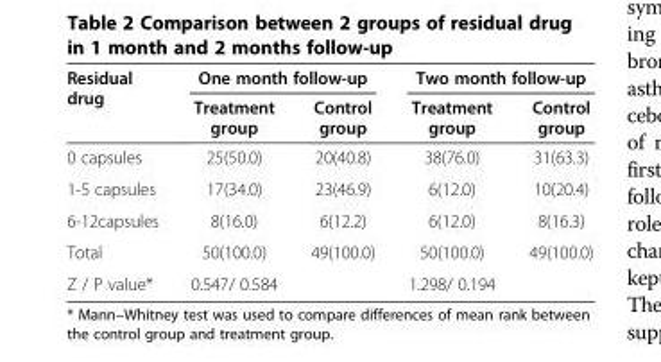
<table><thead><tr><td rowspan="2">Residual drug</td><td colspan="2">One month follow-up</td><td colspan="2">Two month follow-up</td></tr><tr><td>Treatment group</td><td>Control group</td><td>Treatment group</td><td>Control group</td></tr></thead><tbody><tr><td>0 capsules</td><td>25(50.0)</td><td>20(40.8)</td><td>38(76.0)</td><td>31(63.3)</td></tr><tr><td>1-5 capsules</td><td>17(34.0)</td><td>23(46.9)</td><td>6(12.0)</td><td>10(20.4)</td></tr><tr><td>6-12capsules</td><td>8(16.0)</td><td>6(12.2)</td><td>6(12.0)</td><td>8(16.3)</td></tr><tr><td>Total</td><td>50(100.0)</td><td>49(100.0)</td><td>50(100.0)</td><td>49(100.0)</td></tr><tr><td>Z / P value*</td><td>0.547/ 0.584</td><td></td><td>1.298/ 0.194</td><td></td></tr></tbody></table>